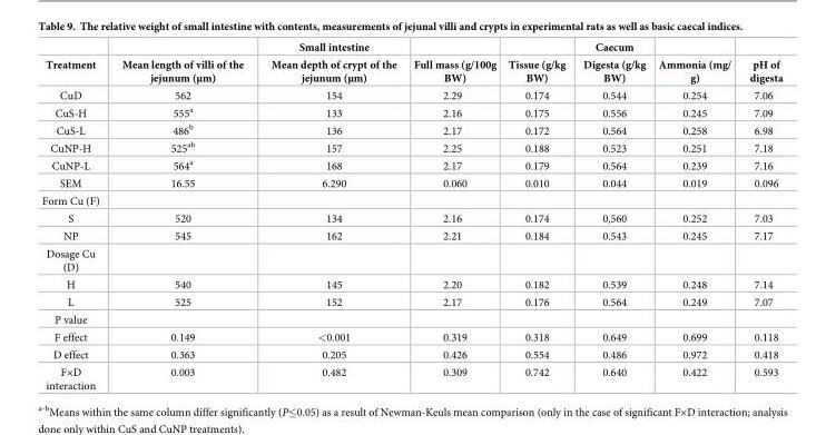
<table><thead><tr><td rowspan="2">Treatment</td><td rowspan="2">Mean length of villi of the jejunum (μm)</td><td rowspan="2">Small intestine Mean depth of crypt of the jejunum (μm)</td><td rowspan="2">Full mass (g/100g BW)</td><td rowspan="2">Tissue (g/kg BW)</td><td rowspan="2">Caecum Digesta (g/kg BW)</td><td rowspan="2">Ammonia (mg/ g)</td><td rowspan="2">pH of digesta</td></tr><tr></tr></thead><tbody><tr><td>CuD</td><td>562</td><td>154</td><td>2.29</td><td>0.174</td><td>0.544</td><td>0.254</td><td>7.06</td></tr><tr><td>CuS-H</td><td>555<sup>a</sup></td><td>133</td><td>2.16</td><td>0.175</td><td>0.556</td><td>0.245</td><td>7.09</td></tr><tr><td>CuS-L</td><td>486<sup>b</sup></td><td>136</td><td>2.17</td><td>0.172</td><td>0.564</td><td>0.258</td><td>6.98</td></tr><tr><td>CuNP-H</td><td>525<sup>ab</sup></td><td>157</td><td>2.25</td><td>0.188</td><td>0.523</td><td>0.251</td><td>7.18</td></tr><tr><td>CuNP-L</td><td>564<sup>a</sup></td><td>168</td><td>2.17</td><td>0.179</td><td>0.564</td><td>0.239</td><td>7.16</td></tr><tr><td>SEM</td><td>16.55</td><td>6.290</td><td>0.060</td><td>0.010</td><td>0.044</td><td>0.019</td><td>0.096</td></tr><tr><td colspan="8">Form Cu (F)</td></tr><tr><td>S</td><td>520</td><td>134</td><td>2.16</td><td>0.174</td><td>0,560</td><td>0.252</td><td>7.03</td></tr><tr><td>NP</td><td>545</td><td>162</td><td>2.21</td><td>0.184</td><td>0.543</td><td>0.245</td><td>7.17</td></tr><tr><td colspan="8">Dosage Cu (D)</td></tr><tr><td>H</td><td>540</td><td>145</td><td>2.20</td><td>0.182</td><td>0.539</td><td>0.248</td><td>7.14</td></tr><tr><td>L</td><td>525</td><td>152</td><td>2.17</td><td>0.176</td><td>0.564</td><td>0.249</td><td>7.07</td></tr><tr><td colspan="8">P value</td></tr><tr><td>F effect</td><td>0.149</td><td>&lt;0.001</td><td>0.319</td><td>0.318</td><td>0.649</td><td>0.699</td><td>0.118</td></tr><tr><td>D effect</td><td>0.363</td><td>0.205</td><td>0.426</td><td>0.554</td><td>0.486</td><td>0.972</td><td>0.418</td></tr><tr><td>F×D interaction</td><td>0.003</td><td>0.482</td><td>0.309</td><td>0.742</td><td>0.640</td><td>0.422</td><td>0.593</td></tr></tbody></table>